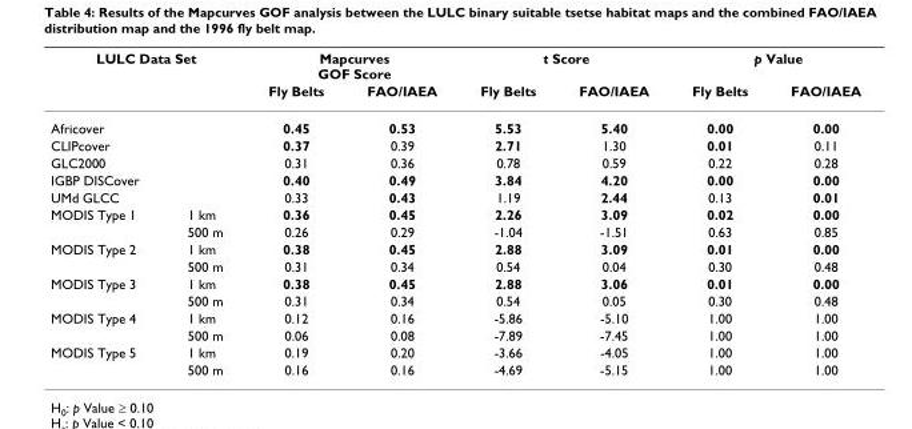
<table><thead><tr><td colspan="2">LULC Data Set</td><td colspan="2">Mapcurves GOF Score</td><td colspan="2">t Score</td><td colspan="2">p Value</td></tr><tr><td></td><td></td><td>Fly Belts</td><td>FAO/IAEA</td><td>Fly Belts</td><td>FAO/IAEA</td><td>Fly Belts</td><td>FAO/IAEA</td></tr></thead><tbody><tr><td colspan="2">Africover</td><td>0.45</td><td>0.53</td><td>5.53</td><td>5.40</td><td>0.00</td><td>0.00</td></tr><tr><td colspan="2">CLIPcover</td><td>0.37</td><td>0.39</td><td>2.71</td><td>1.30</td><td>0.01</td><td>0.11</td></tr><tr><td colspan="2">GLC2000</td><td>0.31</td><td>0.36</td><td>0.78</td><td>0.59</td><td>0.22</td><td>0.28</td></tr><tr><td colspan="2">IGBP DISCover</td><td>0.40</td><td>0.49</td><td>3.84</td><td>4.20</td><td>0.00</td><td>0.00</td></tr><tr><td colspan="2">UMd GLCC</td><td>0.33</td><td>0.43</td><td>1.19</td><td>2.44</td><td>0.13</td><td>0.01</td></tr><tr><td rowspan="2">MODIS Type 1</td><td>1 km</td><td>0.36</td><td>0.45</td><td>2.26</td><td>3.09</td><td>0.02</td><td>0.00</td></tr><tr><td>500 m</td><td>0.26</td><td>0.29</td><td>-1.04</td><td>-1.51</td><td>0.63</td><td>0.85</td></tr><tr><td rowspan="2">MODIS Type 2</td><td>1 km</td><td>0.38</td><td>0.45</td><td>2.88</td><td>3.09</td><td>0.01</td><td>0.00</td></tr><tr><td>500 m</td><td>0.31</td><td>0.34</td><td>0.54</td><td>0.04</td><td>0.30</td><td>0.48</td></tr><tr><td rowspan="2">MODIS Type 3</td><td>1 km</td><td>0.38</td><td>0.45</td><td>2.88</td><td>3.06</td><td>0.01</td><td>0.00</td></tr><tr><td>500 m</td><td>0.31</td><td>0.34</td><td>0.54</td><td>0.05</td><td>0.30</td><td>0.48</td></tr><tr><td rowspan="2">MODIS Type 4</td><td>1 km</td><td>0.12</td><td>0.16</td><td>-5.86</td><td>-5.10</td><td>1.00</td><td>1.00</td></tr><tr><td>500 m</td><td>0.06</td><td>0.08</td><td>-7.89</td><td>-7.45</td><td>1.00</td><td>1.00</td></tr><tr><td rowspan="2">MODIS Type 5</td><td>1 km</td><td>0.19</td><td>0.20</td><td>-3.66</td><td>-4.05</td><td>1.00</td><td>1.00</td></tr><tr><td>500 m</td><td>0.16</td><td>0.16</td><td>-4.69</td><td>-5.15</td><td>1.00</td><td>1.00</td></tr></tbody></table>